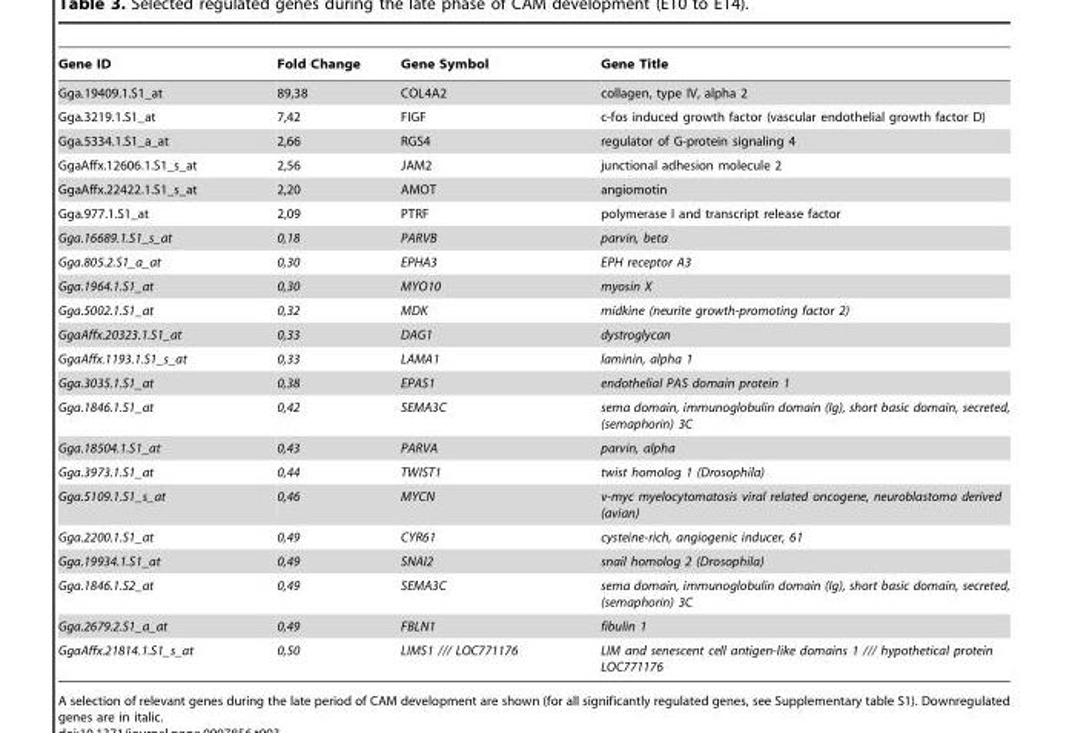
<table><thead><tr><td>Gene ID</td><td>Fold Change</td><td>Gene Symbol</td><td>Gene Title</td></tr></thead><tbody><tr><td>Gga.19409.1.S1_at</td><td>89,38</td><td>COL4A2</td><td>collagen, type IV, alpha 2</td></tr><tr><td>Gga.3219.1.S1_at</td><td>7,42</td><td>FIGF</td><td>c-fos induced growth factor (vascular endothelial growth factor D)</td></tr><tr><td>Gga.5334.1.S1_a_at</td><td>2,66</td><td>RGS4</td><td>regulator of G-protein signaling 4</td></tr><tr><td>GgaAffx.12606.1.S1_s_at</td><td>2,56</td><td>JAM2</td><td>junctional adhesion molecule 2</td></tr><tr><td>GgaAffx.22422.1.S1_s_at</td><td>2,20</td><td>AMOT</td><td>angiomotin</td></tr><tr><td>Gga.977.1.S1_at</td><td>2,09</td><td>PTRF</td><td>polymerase I and transcript release factor</td></tr><tr><td>Gga.16689.1.S1_s_at</td><td>0,18</td><td>PARVB</td><td>parvin, beta</td></tr><tr><td>Gga.805.2.S1_a_at</td><td>0,30</td><td>EPHA3</td><td>EPH receptor A3</td></tr><tr><td>Gga.1964.1.S1_at</td><td>0,30</td><td>MYO10</td><td>myosin X</td></tr><tr><td>Gga.5002.1.S1_at</td><td>0,32</td><td>MDK</td><td>midkine (neurite growth-promoting factor 2)</td></tr><tr><td>GgaAffx.20323.1.S1_at</td><td>0,33</td><td>DAG1</td><td>dystroglycan</td></tr><tr><td>GgaAffx.1193.1.S1_s_at</td><td>0,33</td><td>LAMA1</td><td>laminin, alpha 1</td></tr><tr><td>Gga.3035.1.S1_at</td><td>0,38</td><td>EPAS1</td><td>endothelial PAS domain protein 1</td></tr><tr><td>Gga.1846.1.S1_at</td><td>0,42</td><td>SEMA3C</td><td>sema domain, immunoglobulin domain (Ig), short basic domain, secreted, (semaphorin) 3C</td></tr><tr><td>Gga.18504.1.S1_at</td><td>0,43</td><td>PARVA</td><td>parvin, alpha</td></tr><tr><td>Gga.3973.1.S1_at</td><td>0,44</td><td>TWIST1</td><td>twist homolog 1 (Drosophila)</td></tr><tr><td>Gga.5109.1.S1_s_at</td><td>0,46</td><td>MYCN</td><td>v-myc myelocytomatosis viral related oncogene, neuroblastoma derived (avian)</td></tr><tr><td>Gga.2200.1.S1_at</td><td>0,49</td><td>CYR61</td><td>cysteine-rich, angiogenic inducer, 61</td></tr><tr><td>Gga.19934.1.S1_at</td><td>0,49</td><td>SNAI2</td><td>snail homolog 2 (Drosophila)</td></tr><tr><td>Gga.1846.1.S2_at</td><td>0,49</td><td>SEMA3C</td><td>sema domain, immunoglobulin domain (Ig), short basic domain, secreted, (semaphorin) 3C</td></tr><tr><td>Gga.2679.2.S1_a_at</td><td>0,49</td><td>FBLN1</td><td>fibulin 1</td></tr><tr><td>GgaAffx.21814.1.S1_s_at</td><td>0,50</td><td>LIMS1 /// LOC771176</td><td>LIM and senescent cell antigen-like domains 1 /// hypothetical protein LOC771176</td></tr></tbody></table>